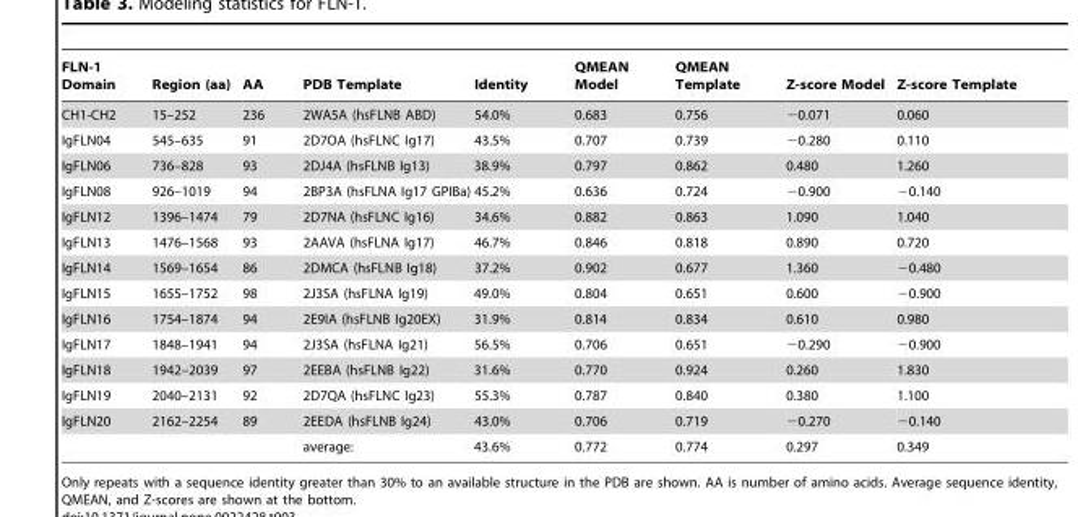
<table><thead><tr><td>FLN-1 Domain</td><td>Region (aa)</td><td>AA</td><td>PDB Template</td><td>Identity</td><td>QMEAN Model</td><td>QMEAN Template</td><td>Z-score Model</td><td>Z-score Template</td></tr></thead><tbody><tr><td>CH1-CH2</td><td>15–252</td><td>236</td><td>2WA5A (hsFLNB ABD)</td><td>54.0%</td><td>0.683</td><td>0.756</td><td>−0.071</td><td>0.060</td></tr><tr><td>IgFLN04</td><td>545–635</td><td>91</td><td>2D7OA (hsFLNC Ig17)</td><td>43.5%</td><td>0.707</td><td>0.739</td><td>−0.280</td><td>0.110</td></tr><tr><td>IgFLN06</td><td>736–828</td><td>93</td><td>2DJ4A (hsFLNB Ig13)</td><td>38.9%</td><td>0.797</td><td>0.862</td><td>0.480</td><td>1.260</td></tr><tr><td>IgFLN08</td><td>926–1019</td><td>94</td><td>2BP3A (hsFLNA Ig17 GPIBa)</td><td>45.2%</td><td>0.636</td><td>0.724</td><td>−0.900</td><td>−0.140</td></tr><tr><td>IgFLN12</td><td>1396–1474</td><td>79</td><td>2D7NA (hsFLNC Ig16)</td><td>34.6%</td><td>0.882</td><td>0.863</td><td>1.090</td><td>1.040</td></tr><tr><td>IgFLN13</td><td>1476–1568</td><td>93</td><td>2AAVA (hsFLNA Ig17)</td><td>46.7%</td><td>0.846</td><td>0.818</td><td>0.890</td><td>0.720</td></tr><tr><td>IgFLN14</td><td>1569–1654</td><td>86</td><td>2DMCA (hsFLNB Ig18)</td><td>37.2%</td><td>0.902</td><td>0.677</td><td>1.360</td><td>−0.480</td></tr><tr><td>IgFLN15</td><td>1655–1752</td><td>98</td><td>2J3SA (hsFLNA Ig19)</td><td>49.0%</td><td>0.804</td><td>0.651</td><td>0.600</td><td>−0.900</td></tr><tr><td>IgFLN16</td><td>1754–1874</td><td>94</td><td>2E9IA (hsFLNB Ig20EX)</td><td>31.9%</td><td>0.814</td><td>0.834</td><td>0.610</td><td>0.980</td></tr><tr><td>IgFLN17</td><td>1848–1941</td><td>94</td><td>2J3SA (hsFLNA Ig21)</td><td>56.5%</td><td>0.706</td><td>0.651</td><td>−0.290</td><td>−0.900</td></tr><tr><td>IgFLN18</td><td>1942–2039</td><td>97</td><td>2EEBA (hsFLNB Ig22)</td><td>31.6%</td><td>0.770</td><td>0.924</td><td>0.260</td><td>1.830</td></tr><tr><td>IgFLN19</td><td>2040–2131</td><td>92</td><td>2D7QA (hsFLNC Ig23)</td><td>55.3%</td><td>0.787</td><td>0.840</td><td>0.380</td><td>1.100</td></tr><tr><td rowspan="2">IgFLN20</td><td>2162–2254</td><td>89</td><td>2EEDA (hsFLNB Ig24)</td><td>43.0%</td><td>0.706</td><td>0.719</td><td>−0.270</td><td>−0.140</td></tr><tr><td></td><td></td><td>average:</td><td>43.6%</td><td>0.772</td><td>0.774</td><td>0.297</td><td>0.349</td></tr></tbody></table>